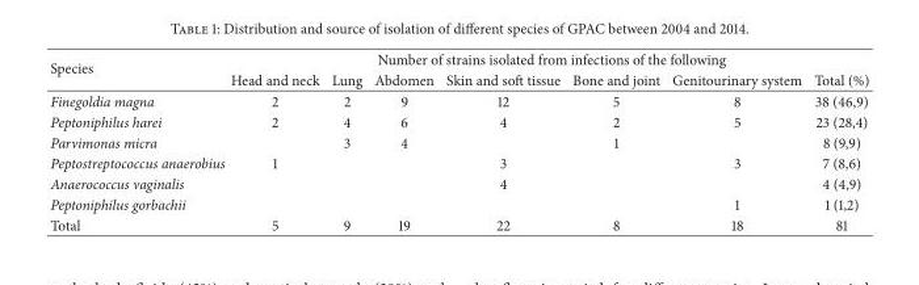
<table><thead><tr><td rowspan="2">Species</td><td colspan="7">Number of strains isolated from infections of the following</td></tr><tr><td>Head and neck</td><td>Lung</td><td>Abdomen</td><td>Skin and soft tissue</td><td>Bone and joint</td><td>Genitourinary system</td><td>Total (%)</td></tr></thead><tbody><tr><td>Finegoldia magna</td><td>2</td><td>2</td><td>9</td><td>12</td><td>5</td><td>8</td><td>38 (46,9)</td></tr><tr><td>Peptoniphilus harei</td><td>2</td><td>4</td><td>6</td><td>4</td><td>2</td><td>5</td><td>23 (28,4)</td></tr><tr><td>Parvimonas micra</td><td></td><td>3</td><td>4</td><td></td><td>1</td><td></td><td>8 (9,9)</td></tr><tr><td>Peptostreptococcus anaerobius</td><td>1</td><td></td><td></td><td>3</td><td></td><td>3</td><td>7 (8,6)</td></tr><tr><td>Anaerococcus vaginalis</td><td></td><td></td><td></td><td>4</td><td></td><td></td><td>4 (4,9)</td></tr><tr><td>Peptoniphilus gorbachii</td><td></td><td></td><td></td><td></td><td></td><td>1</td><td>1 (1,2)</td></tr><tr><td>Total</td><td>5</td><td>9</td><td>19</td><td>22</td><td>8</td><td>18</td><td>81</td></tr></tbody></table>